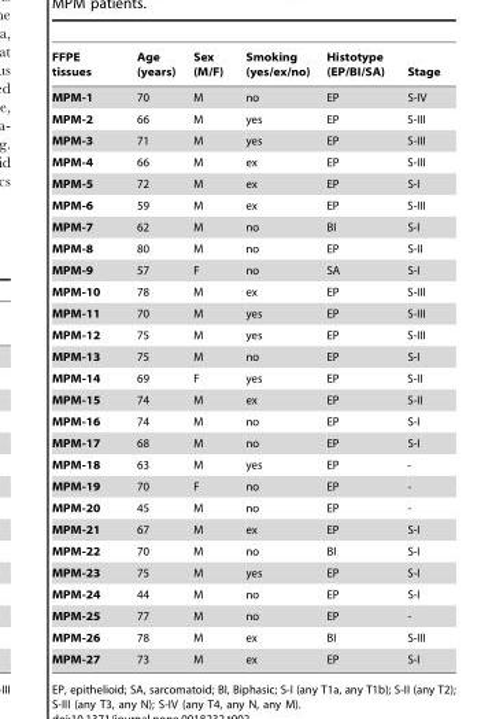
<table><thead><tr><td>FFPE tissues</td><td>Age (years)</td><td>Sex (M/F)</td><td>Smoking (yes/ex/no)</td><td>Histotype (EP/BI/SA)</td><td>Stage</td></tr></thead><tbody><tr><td>MPM-1</td><td>70</td><td>M</td><td>no</td><td>EP</td><td>S-IV</td></tr><tr><td>MPM-2</td><td>66</td><td>M</td><td>yes</td><td>EP</td><td>S-III</td></tr><tr><td>MPM-3</td><td>71</td><td>M</td><td>yes</td><td>EP</td><td>S-III</td></tr><tr><td>MPM-4</td><td>66</td><td>M</td><td>ex</td><td>EP</td><td>S-III</td></tr><tr><td>MPM-5</td><td>72</td><td>M</td><td>ex</td><td>EP</td><td>S-I</td></tr><tr><td>MPM-6</td><td>59</td><td>M</td><td>ex</td><td>EP</td><td>S-III</td></tr><tr><td>MPM-7</td><td>62</td><td>M</td><td>no</td><td>BI</td><td>S-I</td></tr><tr><td>MPM-8</td><td>80</td><td>M</td><td>no</td><td>EP</td><td>S-II</td></tr><tr><td>MPM-9</td><td>57</td><td>F</td><td>no</td><td>SA</td><td>S-I</td></tr><tr><td>MPM-10</td><td>78</td><td>M</td><td>ex</td><td>EP</td><td>S-III</td></tr><tr><td>MPM-11</td><td>70</td><td>M</td><td>yes</td><td>EP</td><td>S-III</td></tr><tr><td>MPM-12</td><td>75</td><td>M</td><td>yes</td><td>EP</td><td>S-III</td></tr><tr><td>MPM-13</td><td>75</td><td>M</td><td>no</td><td>EP</td><td>S-I</td></tr><tr><td>MPM-14</td><td>69</td><td>F</td><td>yes</td><td>EP</td><td>S-II</td></tr><tr><td>MPM-15</td><td>74</td><td>M</td><td>ex</td><td>EP</td><td>S-II</td></tr><tr><td>MPM-16</td><td>74</td><td>M</td><td>no</td><td>EP</td><td>S-I</td></tr><tr><td>MPM-17</td><td>68</td><td>M</td><td>no</td><td>EP</td><td>S-I</td></tr><tr><td>MPM-18</td><td>63</td><td>M</td><td>yes</td><td>EP</td><td>-</td></tr><tr><td>MPM-19</td><td>70</td><td>F</td><td>no</td><td>EP</td><td>-</td></tr><tr><td>MPM-20</td><td>45</td><td>M</td><td>no</td><td>EP</td><td>-</td></tr><tr><td>MPM-21</td><td>67</td><td>M</td><td>ex</td><td>EP</td><td>S-I</td></tr><tr><td>MPM-22</td><td>70</td><td>M</td><td>no</td><td>BI</td><td>S-I</td></tr><tr><td>MPM-23</td><td>75</td><td>M</td><td>yes</td><td>EP</td><td>S-I</td></tr><tr><td>MPM-24</td><td>44</td><td>M</td><td>no</td><td>EP</td><td>S-I</td></tr><tr><td>MPM-25</td><td>77</td><td>M</td><td>no</td><td>EP</td><td>-</td></tr><tr><td>MPM-26</td><td>78</td><td>M</td><td>ex</td><td>BI</td><td>S-III</td></tr><tr><td>MPM-27</td><td>73</td><td>M</td><td>ex</td><td>EP</td><td>S-I</td></tr></tbody></table>